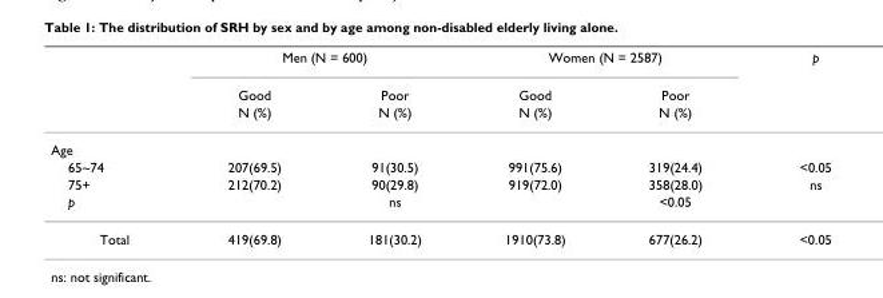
<table><thead><tr><td rowspan="3"></td><td colspan="2">Men (N = 600)</td><td colspan="2">Women (N = 2587)</td><td rowspan="3">p</td></tr><tr><td rowspan="2">Good N (%)</td><td rowspan="2">Poor N (%)</td><td rowspan="2">Good N (%)</td><td rowspan="2">Poor N (%)</td></tr><tr></tr></thead><tbody><tr><td colspan="6">Age</td></tr><tr><td>65~74</td><td>207(69.5)</td><td>91(30.5)</td><td>991(75.6)</td><td>319(24.4)</td><td>&lt;0.05</td></tr><tr><td>75+</td><td>212(70.2)</td><td>90(29.8)</td><td>919(72.0)</td><td>358(28.0)</td><td>ns</td></tr><tr><td>p</td><td></td><td>ns</td><td></td><td>&lt;0.05</td><td></td></tr><tr><td>Total</td><td>419(69.8)</td><td>181(30.2)</td><td>1910(73.8)</td><td>677(26.2)</td><td>&lt;0.05</td></tr></tbody></table>